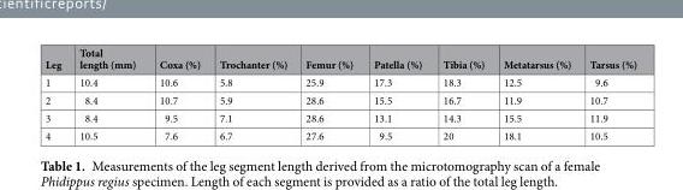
<table><thead><tr><td>Leg</td><td>Total length (mm)</td><td>Coxa (%)</td><td>Trochanter (%)</td><td>Femur (%)</td><td>Patella (%)</td><td>Tibia (%)</td><td>Metatarsus (%)</td><td>Tarsus (%)</td></tr></thead><tbody><tr><td>1</td><td>10.4</td><td>10.6</td><td>5.8</td><td>25.9</td><td>17.3</td><td>18.3</td><td>12.5</td><td>9.6</td></tr><tr><td>2</td><td>8.4</td><td>10.7</td><td>5.9</td><td>28.6</td><td>15.5</td><td>16.7</td><td>11.9</td><td>10.7</td></tr><tr><td>3</td><td>8.4</td><td>9.5</td><td>7.1</td><td>28.6</td><td>13.1</td><td>14.3</td><td>15.5</td><td>11.9</td></tr><tr><td>4</td><td>10.5</td><td>7.6</td><td>6.7</td><td>27.6</td><td>9.5</td><td>20</td><td>18.1</td><td>10.5</td></tr></tbody></table>